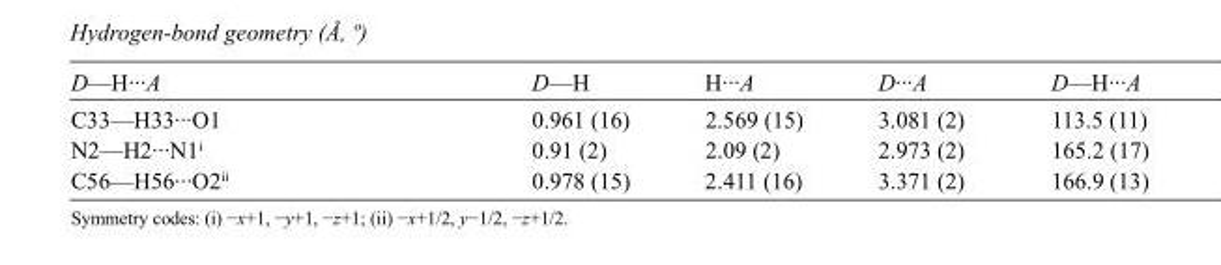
<table><tbody><tr><td>D—H···A</td><td>D—H</td><td>H···A</td><td>D···A</td><td>D—H···A</td></tr><tr><td>C33—H33···O1</td><td>0.961 (16)</td><td>2.569 (15)</td><td>3.081 (2)</td><td>113.5 (11)</td></tr><tr><td>N2—H2···N1<sup>i</sup></td><td>0.91 (2)</td><td>2.09 (2)</td><td>2.973 (2)</td><td>165.2 (17)</td></tr><tr><td>C56—H56···O2<sup>ii</sup></td><td>0.978 (15)</td><td>2.411 (16)</td><td>3.371 (2)</td><td>166.9 (13)</td></tr></tbody></table>